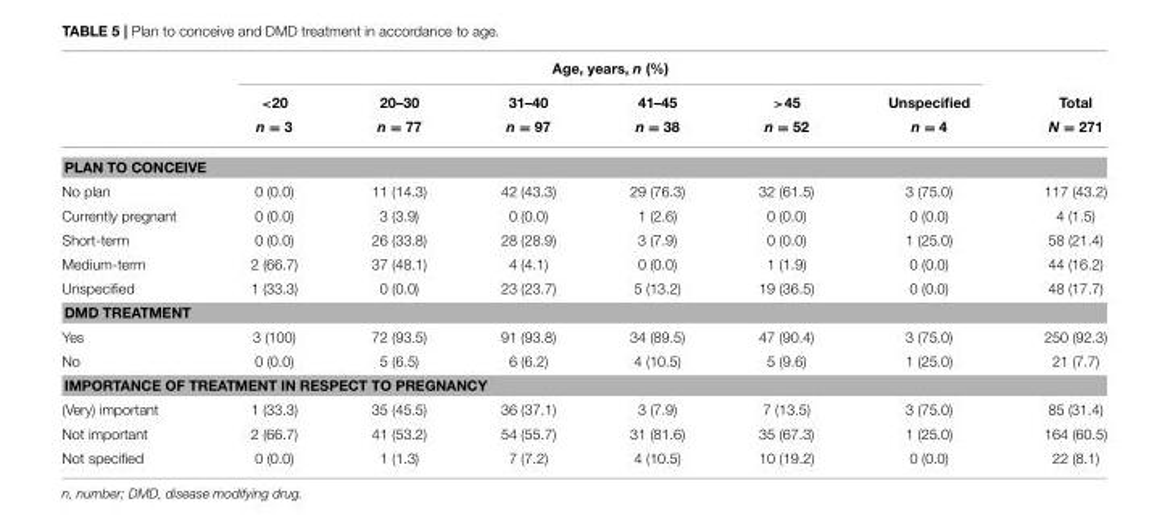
<table><thead><tr><td rowspan="3"></td><td colspan="6">Age, years, n (%)</td><td rowspan="3">Total N = 271</td></tr><tr><td rowspan="2">&lt;20 n = 3</td><td rowspan="2">20–30 n = 77</td><td rowspan="2">31–40 n = 97</td><td rowspan="2">41–45 n = 38</td><td rowspan="2">&gt;45 n = 52</td><td rowspan="2">Unspecified n = 4</td></tr><tr></tr></thead><tbody><tr><td colspan="8">PLAN TO CONCEIVE</td></tr><tr><td>No plan</td><td>0 (0.0)</td><td>11 (14.3)</td><td>42 (43.3)</td><td>29 (76.3)</td><td>32 (61.5)</td><td>3 (75.0)</td><td>117 (43.2)</td></tr><tr><td>Currently pregnant</td><td>0 (0.0)</td><td>3 (3.9)</td><td>0 (0.0)</td><td>1 (2.6)</td><td>0 (0.0)</td><td>0 (0.0)</td><td>4 (1.5)</td></tr><tr><td>Short-term</td><td>0 (0.0)</td><td>26 (33.8)</td><td>28 (28.9)</td><td>3 (7.9)</td><td>0 (0.0)</td><td>1 (25.0)</td><td>58 (21.4)</td></tr><tr><td>Medium-term</td><td>2 (66.7)</td><td>37 (48.1)</td><td>4 (4.1)</td><td>0 (0.0)</td><td>1 (1.9)</td><td>0 (0.0)</td><td>44 (16.2)</td></tr><tr><td>Unspecified</td><td>1 (33.3)</td><td>0 (0.0)</td><td>23 (23.7)</td><td>5 (13.2)</td><td>19 (36.5)</td><td>0 (0.0)</td><td>48 (17.7)</td></tr><tr><td colspan="8">DMD TREATMENT</td></tr><tr><td>Yes</td><td>3 (100)</td><td>72 (93.5)</td><td>91 (93.8)</td><td>34 (89.5)</td><td>47 (90.4)</td><td>3 (75.0)</td><td>250 (92.3)</td></tr><tr><td>No</td><td>0 (0.0)</td><td>5 (6.5)</td><td>6 (6.2)</td><td>4 (10.5)</td><td>5 (9.6)</td><td>1 (25.0)</td><td>21 (7.7)</td></tr><tr><td colspan="8">IMPORTANCE OF TREATMENT IN RESPECT TO PREGNANCY</td></tr><tr><td>(Very) important</td><td>1 (33.3)</td><td>35 (45.5)</td><td>36 (37.1)</td><td>3 (7.9)</td><td>7 (13.5)</td><td>3 (75.0)</td><td>85 (31.4)</td></tr><tr><td>Not important</td><td>2 (66.7)</td><td>41 (53.2)</td><td>54 (55.7)</td><td>31 (81.6)</td><td>35 (67.3)</td><td>1 (25.0)</td><td>164 (60.5)</td></tr><tr><td>Not specified</td><td>0 (0.0)</td><td>1 (1.3)</td><td>7 (7.2)</td><td>4 (10.5)</td><td>10 (19.2)</td><td>0 (0.0)</td><td>22 (8.1)</td></tr></tbody></table>